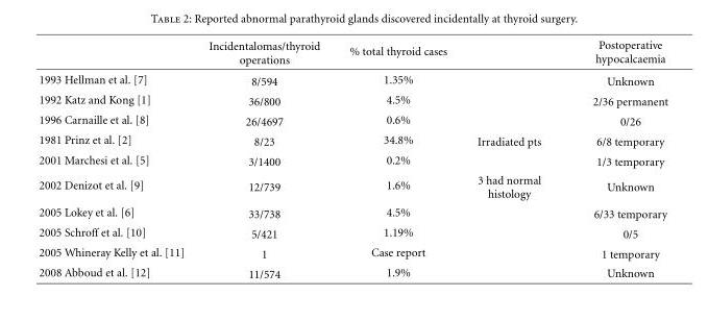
<table><thead><tr><td></td><td>Incidentalomas/thyroid operations</td><td>% total thyroid cases</td><td></td><td>Postoperative hypocalcaemia</td></tr></thead><tbody><tr><td>1993 Hellman et al. [7]</td><td>8/594</td><td>1.35%</td><td></td><td>Unknown</td></tr><tr><td>1992 Katz and Kong [1]</td><td>36/800</td><td>4.5%</td><td></td><td>2/36 permanent</td></tr><tr><td>1996 Carnaille et al. [8]</td><td>26/4697</td><td>0.6%</td><td></td><td>0/26</td></tr><tr><td>1981 Prinz et al. [2]</td><td>8/23</td><td>34.8%</td><td>Irradiated pts</td><td>6/8 temporary</td></tr><tr><td>2001 Marchesi et al. [5]</td><td>3/1400</td><td>0.2%</td><td></td><td>1/3 temporary</td></tr><tr><td>2002 Denizot et al. [9]</td><td>12/739</td><td>1.6%</td><td>3 had normal histology</td><td>Unknown</td></tr><tr><td>2005 Lokey et al. [6]</td><td>33/738</td><td>4.5%</td><td></td><td>6/33 temporary</td></tr><tr><td>2005 Schroff et al. [10]</td><td>5/421</td><td>1.19%</td><td></td><td>0/5</td></tr><tr><td>2005 Whineray Kelly et al. [11]</td><td>1</td><td>Case report</td><td></td><td>1 temporary</td></tr><tr><td>2008 Abboud et al. [12]</td><td>11/574</td><td>1.9%</td><td></td><td>Unknown</td></tr></tbody></table>